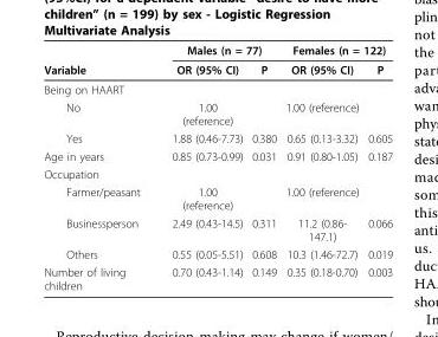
<table><thead><tr><td rowspan="2">Variable</td><td colspan="2">Males (n = 77)</td><td colspan="2">Females (n = 122)</td></tr><tr><td>OR (95% CI)</td><td>P</td><td>OR (95% CI)</td><td>P</td></tr></thead><tbody><tr><td colspan="5">Being on HAART</td></tr><tr><td>No</td><td>1.00 (reference)</td><td></td><td>1.00 (reference)</td><td></td></tr><tr><td>Yes</td><td>1.88 (0.46-7.73)</td><td>0.380</td><td>0.65 (0.13-3.32)</td><td>0.605</td></tr><tr><td>Age in years</td><td>0.85 (0.73-0.99)</td><td>0.031</td><td>0.91 (0.80-1.05)</td><td>0.187</td></tr><tr><td colspan="5">Occupation</td></tr><tr><td>Farmer/peasant</td><td>1.00 (reference)</td><td></td><td>1.00 (reference)</td><td></td></tr><tr><td>Businessperson</td><td>2.49 (0.43-14.5)</td><td>0.311</td><td>11.2 (0.86- 147.1)</td><td>0.066</td></tr><tr><td>Others</td><td>0.55 (0.05-5.51)</td><td>0.608</td><td>10.3 (1.46-72.7)</td><td>0.019</td></tr><tr><td>Number of living children</td><td>0.70 (0.43-1.14)</td><td>0.149</td><td>0.35 (0.18-0.70)</td><td>0.003</td></tr></tbody></table>